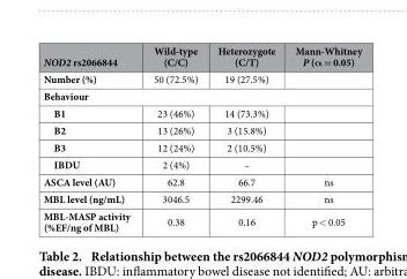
<table><thead><tr><td>NOD2 rs2066844</td><td>Wild-type (C/C)</td><td>Heterozygote (C/T)</td><td>Mann-Whitney P (α = 0.05)</td></tr></thead><tbody><tr><td>Number (%)</td><td>50 (72.5%)</td><td>19 (27.5%)</td><td></td></tr><tr><td colspan="4">Behaviour</td></tr><tr><td>B1</td><td>23 (46%)</td><td>14 (73.3%)</td><td></td></tr><tr><td>B2</td><td>13 (26%)</td><td>3 (15.8%)</td><td></td></tr><tr><td>B3</td><td>12 (24%)</td><td>2 (10.5%)</td><td></td></tr><tr><td>IBDU</td><td>2 (4%)</td><td>–</td><td></td></tr><tr><td>ASCA level (AU)</td><td>62.8</td><td>66.7</td><td>ns</td></tr><tr><td>MBL level (ng/mL)</td><td>3046.5</td><td>2299.46</td><td>ns</td></tr><tr><td>MBL-MASP activity (%EF/ng of MBL)</td><td>0.38</td><td>0.16</td><td>p &lt; 0.05</td></tr></tbody></table>